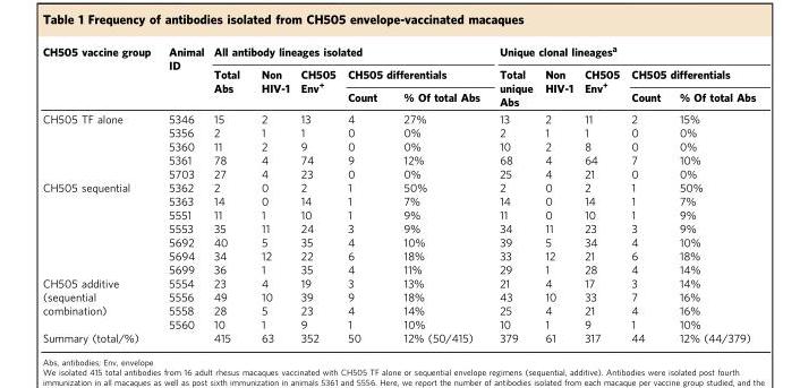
<table><thead><tr><td rowspan="3">CH505 vaccine group</td><td rowspan="3">Animal ID</td><td colspan="5">All antibody lineages isolated</td><td colspan="5">Unique clonal lineages<sup>a</sup></td></tr><tr><td rowspan="2">Total Abs</td><td rowspan="2">Non HIV-1</td><td rowspan="2">CH505 Env<sup>+</sup></td><td colspan="2">CH505 differentials</td><td rowspan="2">Total unique Abs</td><td rowspan="2">Non HIV-1</td><td rowspan="2">CH505 Env<sup>+</sup></td><td colspan="2">CH505 differentials</td></tr><tr><td>Count</td><td>% Of total Abs</td><td>Count</td><td>% Of total Abs</td></tr></thead><tbody><tr><td rowspan="5">CH505 TF alone</td><td>5346</td><td>15</td><td>2</td><td>13</td><td>4</td><td>27%</td><td>13</td><td>2</td><td>11</td><td>2</td><td>15%</td></tr><tr><td>5356</td><td>2</td><td>1</td><td>1</td><td>0</td><td>0%</td><td>2</td><td>1</td><td>1</td><td>0</td><td>0%</td></tr><tr><td>5360</td><td>11</td><td>2</td><td>9</td><td>0</td><td>0%</td><td>10</td><td>2</td><td>8</td><td>0</td><td>0%</td></tr><tr><td>5361</td><td>78</td><td>4</td><td>74</td><td>9</td><td>12%</td><td>68</td><td>4</td><td>64</td><td>7</td><td>10%</td></tr><tr><td>5703</td><td>27</td><td>4</td><td>23</td><td>0</td><td>0%</td><td>25</td><td>4</td><td>21</td><td>0</td><td>0%</td></tr><tr><td rowspan="7">CH505 sequential</td><td>5362</td><td>2</td><td>0</td><td>2</td><td>1</td><td>50%</td><td>2</td><td>0</td><td>2</td><td>1</td><td>50%</td></tr><tr><td>5363</td><td>14</td><td>0</td><td>14</td><td>1</td><td>7%</td><td>14</td><td>0</td><td>14</td><td>1</td><td>7%</td></tr><tr><td>5551</td><td>11</td><td>1</td><td>10</td><td>1</td><td>9%</td><td>11</td><td>0</td><td>10</td><td>1</td><td>9%</td></tr><tr><td>5553</td><td>35</td><td>11</td><td>24</td><td>3</td><td>9%</td><td>34</td><td>11</td><td>23</td><td>3</td><td>9%</td></tr><tr><td>5692</td><td>40</td><td>5</td><td>35</td><td>4</td><td>10%</td><td>39</td><td>5</td><td>34</td><td>4</td><td>10%</td></tr><tr><td>5694</td><td>34</td><td>12</td><td>22</td><td>6</td><td>18%</td><td>33</td><td>12</td><td>21</td><td>6</td><td>18%</td></tr><tr><td>5699</td><td>36</td><td>1</td><td>35</td><td>4</td><td>11%</td><td>29</td><td>1</td><td>28</td><td>4</td><td>14%</td></tr><tr><td rowspan="4">CH505 additive (sequential combination)</td><td>5554</td><td>23</td><td>4</td><td>19</td><td>3</td><td>13%</td><td>21</td><td>4</td><td>17</td><td>3</td><td>14%</td></tr><tr><td>5556</td><td>49</td><td>10</td><td>39</td><td>9</td><td>18%</td><td>43</td><td>10</td><td>33</td><td>7</td><td>16%</td></tr><tr><td>5558</td><td>28</td><td>5</td><td>23</td><td>4</td><td>14%</td><td>25</td><td>4</td><td>21</td><td>4</td><td>16%</td></tr><tr><td>5560</td><td>10</td><td>1</td><td>9</td><td>1</td><td>10%</td><td>10</td><td>1</td><td>9</td><td>1</td><td>10%</td></tr><tr><td>Summary (total/%)</td><td></td><td>415</td><td>63</td><td>352</td><td>50</td><td>12% (50/415)</td><td>379</td><td>61</td><td>317</td><td>44</td><td>12% (44/379)</td></tr></tbody></table>